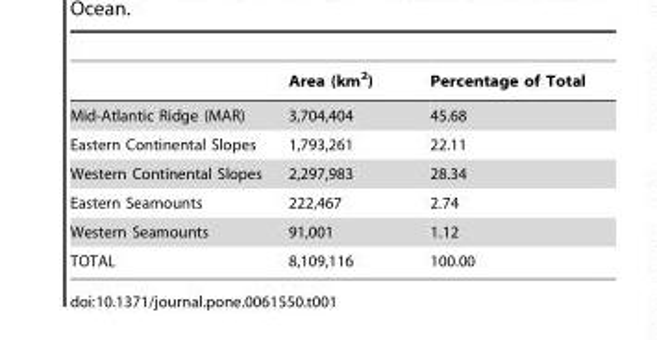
<table><thead><tr><td></td><td>Area (km<sup>2</sup>)</td><td>Percentage of Total</td></tr></thead><tbody><tr><td>Mid-Atlantic Ridge (MAR)</td><td>3,704,404</td><td>45.68</td></tr><tr><td>Eastern Continental Slopes</td><td>1,793,261</td><td>22.11</td></tr><tr><td>Western Continental Slopes</td><td>2,297,983</td><td>28.34</td></tr><tr><td>Eastern Seamounts</td><td>222,467</td><td>2.74</td></tr><tr><td>Western Seamounts</td><td>91,001</td><td>1.12</td></tr><tr><td>TOTAL</td><td>8,109,116</td><td>100.00</td></tr></tbody></table>